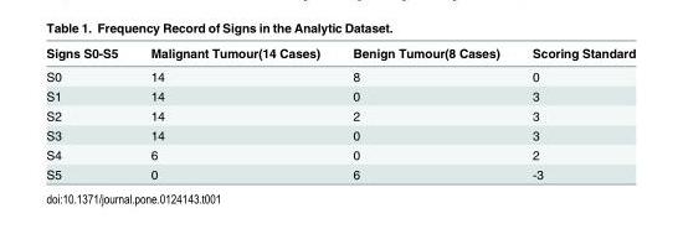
<table><thead><tr><td>Signs S0-S5</td><td>Malignant Tumour(14 Cases)</td><td>Benign Tumour(8 Cases)</td><td>Scoring Standard</td></tr></thead><tbody><tr><td>S0</td><td>14</td><td>8</td><td>0</td></tr><tr><td>S1</td><td>14</td><td>0</td><td>3</td></tr><tr><td>S2</td><td>14</td><td>2</td><td>3</td></tr><tr><td>S3</td><td>14</td><td>0</td><td>3</td></tr><tr><td>S4</td><td>6</td><td>0</td><td>2</td></tr><tr><td>S5</td><td>0</td><td>6</td><td>-3</td></tr></tbody></table>